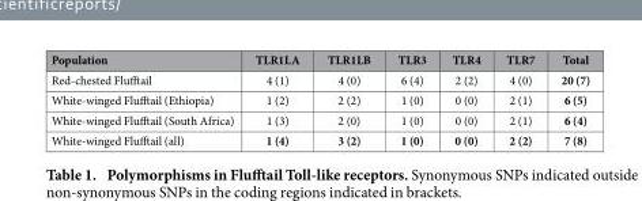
<table><thead><tr><td>Population</td><td>TLR1LA</td><td>TLR1LB</td><td>TLR3</td><td>TLR4</td><td>TLR7</td><td>Total</td></tr></thead><tbody><tr><td>Red-chested Flufftail</td><td>4 (1)</td><td>4 (0)</td><td>6 (4)</td><td>2 (2)</td><td>4 (0)</td><td>20 (7)</td></tr><tr><td>White-winged Flufftail (Ethiopia)</td><td>1 (2)</td><td>2 (2)</td><td>1 (0)</td><td>0 (0)</td><td>2 (1)</td><td>6 (5)</td></tr><tr><td>White-winged Flufftail (South Africa)</td><td>1 (3)</td><td>2 (0)</td><td>1 (0)</td><td>0 (0)</td><td>2 (1)</td><td>6 (4)</td></tr><tr><td>White-winged Flufftail (all)</td><td>1 (4)</td><td>3 (2)</td><td>1 (0)</td><td>0 (0)</td><td>2 (2)</td><td>7 (8)</td></tr></tbody></table>